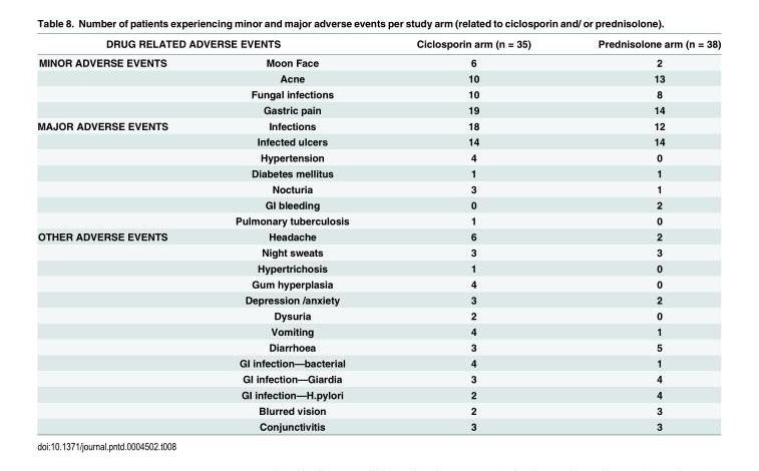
<table><thead><tr><td colspan="2">DRUG RELATED ADVERSE EVENTS</td><td rowspan="2">Ciclosporin arm (n = 35) 6</td><td rowspan="2">Prednisolone arm (n = 38) 2</td></tr><tr><td>MINOR ADVERSE EVENTS</td><td>Moon Face</td></tr></thead><tbody><tr><td></td><td>Acne</td><td>10</td><td>13</td></tr><tr><td></td><td>Fungal infections</td><td>10</td><td>8</td></tr><tr><td></td><td>Gastric pain</td><td>19</td><td>14</td></tr><tr><td rowspan="7">MAJOR ADVERSE EVENTS</td><td>Infections</td><td>18</td><td>12</td></tr><tr><td>Infected ulcers</td><td>14</td><td>14</td></tr><tr><td>Hypertension</td><td>4</td><td>0</td></tr><tr><td>Diabetes mellitus</td><td>1</td><td>1</td></tr><tr><td>Nocturia</td><td>3</td><td>1</td></tr><tr><td>GI bleeding</td><td>0</td><td>2</td></tr><tr><td>Pulmonary tuberculosis</td><td>1</td><td>0</td></tr><tr><td rowspan="13">OTHER ADVERSE EVENTS</td><td>Headache</td><td>6</td><td>2</td></tr><tr><td>Night sweats</td><td>3</td><td>3</td></tr><tr><td>Hypertrichosis</td><td>1</td><td>0</td></tr><tr><td>Gum hyperplasia</td><td>4</td><td>0</td></tr><tr><td>Depression /anxiety</td><td>3</td><td>2</td></tr><tr><td>Dysuria</td><td>2</td><td>0</td></tr><tr><td>Vomiting</td><td>4</td><td>1</td></tr><tr><td>Diarrhoea</td><td>3</td><td>5</td></tr><tr><td>GI infection—bacterial</td><td>4</td><td>1</td></tr><tr><td>GI infection—Giardia</td><td>3</td><td>4</td></tr><tr><td>GI infection—H.pylori</td><td>2</td><td>4</td></tr><tr><td>Blurred vision</td><td>2</td><td>3</td></tr><tr><td>Conjunctivitis</td><td>3</td><td>3</td></tr></tbody></table>